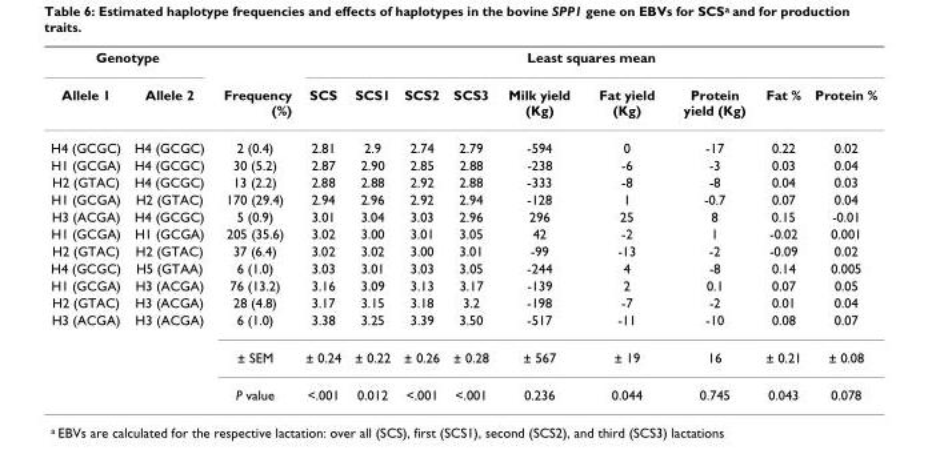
<table><thead><tr><td colspan="2">Genotype</td><td rowspan="2">Frequency (%)</td><td colspan="9">Least squares mean</td></tr><tr><td>Allele 1</td><td>Allele 2</td><td>SCS</td><td>SCS1</td><td>SCS2</td><td>SCS3</td><td>Milk yield (Kg)</td><td>Fat yield (Kg)</td><td>Protein yield (Kg)</td><td>Fat %</td><td>Protein %</td></tr></thead><tbody><tr><td>H4 (GCGC)</td><td>H4 (GCGC)</td><td>2 (0.4)</td><td>2.81</td><td>2.9</td><td>2.74</td><td>2.79</td><td>-594</td><td>0</td><td>-17</td><td>0.22</td><td>0.02</td></tr><tr><td>H1 (GCGA)</td><td>H4 (GCGC)</td><td>30 (5.2)</td><td>2.87</td><td>2.90</td><td>2.85</td><td>2.88</td><td>-238</td><td>-6</td><td>-3</td><td>0.03</td><td>0.04</td></tr><tr><td>H2 (GTAC)</td><td>H4 (GCGC)</td><td>13 (2.2)</td><td>2.88</td><td>2.88</td><td>2.92</td><td>2.88</td><td>-333</td><td>-8</td><td>-8</td><td>0.04</td><td>0.03</td></tr><tr><td>H1 (GCGA)</td><td>H2 (GTAC)</td><td>170 (29.4)</td><td>2.94</td><td>2.96</td><td>2.92</td><td>2.94</td><td>-128</td><td>1</td><td>-0.7</td><td>0.07</td><td>0.04</td></tr><tr><td>H3 (ACGA)</td><td>H4 (GCGC)</td><td>5 (0.9)</td><td>3.01</td><td>3.04</td><td>3.03</td><td>2.96</td><td>296</td><td>25</td><td>8</td><td>0.15</td><td>-0.01</td></tr><tr><td>H1 (GCGA)</td><td>H1 (GCGA)</td><td>205 (35.6)</td><td>3.02</td><td>3.00</td><td>3.01</td><td>3.05</td><td>42</td><td>-2</td><td>1</td><td>-0.02</td><td>0.001</td></tr><tr><td>H2 (GTAC)</td><td>H2 (GTAC)</td><td>37 (6.4)</td><td>3.02</td><td>3.02</td><td>3.00</td><td>3.01</td><td>-99</td><td>-13</td><td>-2</td><td>-0.09</td><td>0.02</td></tr><tr><td>H4 (GCGC)</td><td>H5 (GTAA)</td><td>6 (1.0)</td><td>3.03</td><td>3.01</td><td>3.03</td><td>3.05</td><td>-244</td><td>4</td><td>-8</td><td>0.14</td><td>0.005</td></tr><tr><td>H1 (GCGA)</td><td>H3 (ACGA)</td><td>76 (13.2)</td><td>3.16</td><td>3.09</td><td>3.13</td><td>3.17</td><td>-139</td><td>2</td><td>0.1</td><td>0.07</td><td>0.05</td></tr><tr><td>H2 (GTAC)</td><td>H3 (ACGA)</td><td>28 (4.8)</td><td>3.17</td><td>3.15</td><td>3.18</td><td>3.2</td><td>-198</td><td>-7</td><td>-2</td><td>0.01</td><td>0.04</td></tr><tr><td rowspan="3">H3 (ACGA)</td><td>H3 (ACGA)</td><td>6 (1.0)</td><td>3.38</td><td>3.25</td><td>3.39</td><td>3.50</td><td>-517</td><td>-11</td><td>-10</td><td>0.08</td><td>0.07</td></tr><tr><td></td><td>± SEM</td><td>± 0.24</td><td>± 0.22</td><td>± 0.26</td><td>± 0.28</td><td>± 567</td><td>± 19</td><td>16</td><td>± 0.21</td><td>± 0.08</td></tr><tr><td></td><td>P value</td><td>&lt;.001</td><td>0.012</td><td>&lt;.001</td><td>&lt;.001</td><td>0.236</td><td>0.044</td><td>0.745</td><td>0.043</td><td>0.078</td></tr></tbody></table>